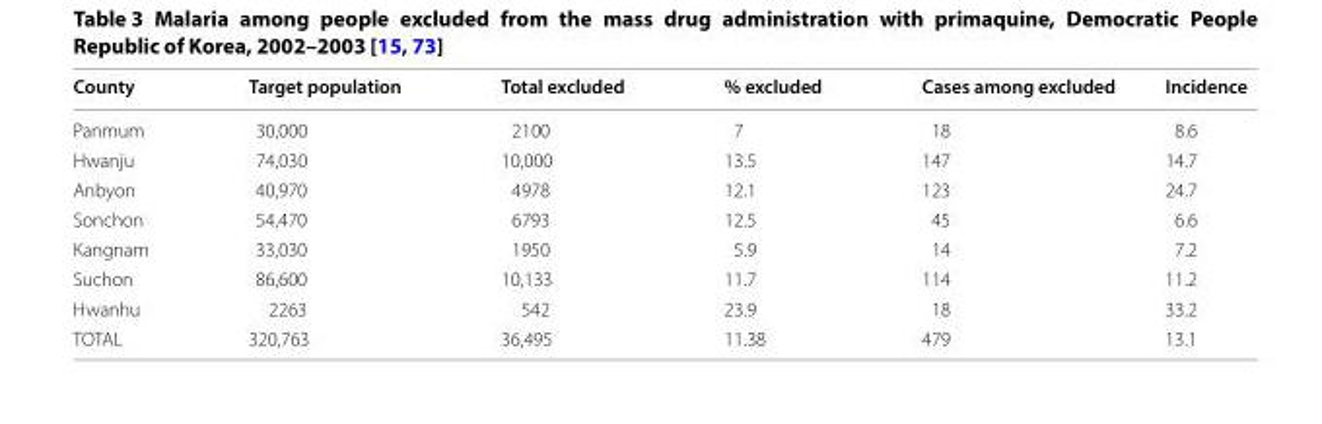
<table><thead><tr><td>County</td><td>Target population</td><td>Total excluded</td><td>% excluded</td><td>Cases among excluded</td><td>Incidence</td></tr></thead><tbody><tr><td>Panmum</td><td>30,000</td><td>2100</td><td>7</td><td>18</td><td>8.6</td></tr><tr><td>Hwanju</td><td>74,030</td><td>10,000</td><td>13.5</td><td>147</td><td>14.7</td></tr><tr><td>Anbyon</td><td>40,970</td><td>4978</td><td>12.1</td><td>123</td><td>24.7</td></tr><tr><td>Sonchon</td><td>54,470</td><td>6793</td><td>12.5</td><td>45</td><td>6.6</td></tr><tr><td>Kangnam</td><td>33,030</td><td>1950</td><td>5.9</td><td>14</td><td>7.2</td></tr><tr><td>Suchon</td><td>86,600</td><td>10,133</td><td>11.7</td><td>114</td><td>11.2</td></tr><tr><td>Hwanhu</td><td>2263</td><td>542</td><td>23.9</td><td>18</td><td>33.2</td></tr><tr><td>TOTAL</td><td>320,763</td><td>36,495</td><td>11.38</td><td>479</td><td>13.1</td></tr></tbody></table>